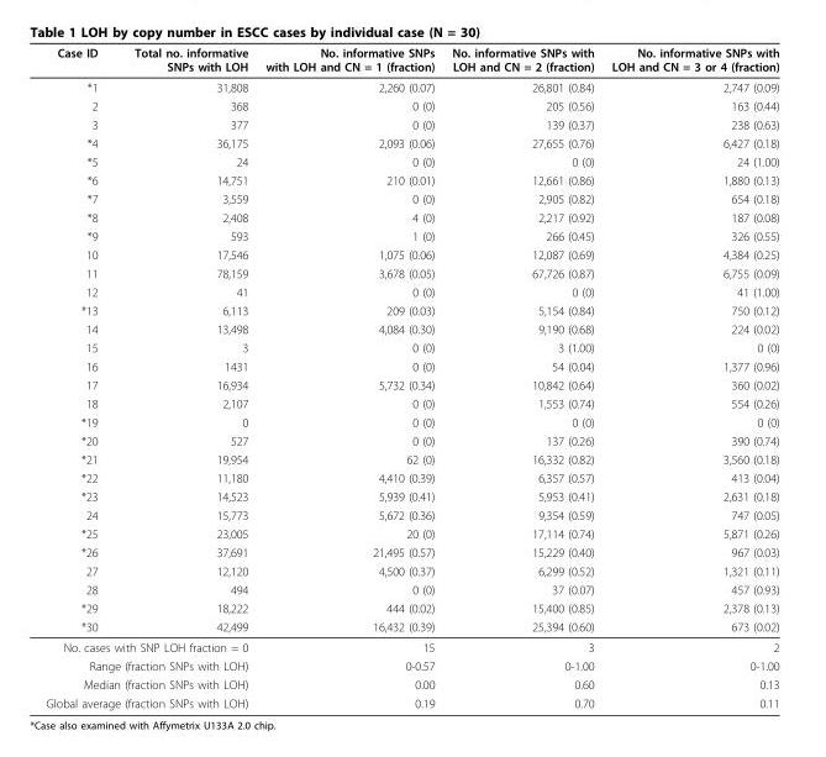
<table><thead><tr><td>Case ID</td><td>Total no. informative SNPs with LOH</td><td>No. informative SNPs with LOH and CN = 1 (fraction)</td><td>No. informative SNPs with LOH and CN = 2 (fraction)</td><td>No. informative SNPs with LOH and CN = 3 or 4 (fraction)</td></tr></thead><tbody><tr><td>*1</td><td>31,808</td><td>2,260 (0.07)</td><td>26,801 (0.84)</td><td>2,747 (0.09)</td></tr><tr><td>2</td><td>368</td><td>0 (0)</td><td>205 (0.56)</td><td>163 (0.44)</td></tr><tr><td>3</td><td>377</td><td>0 (0)</td><td>139 (0.37)</td><td>238 (0.63)</td></tr><tr><td>*4</td><td>36,175</td><td>2,093 (0.06)</td><td>27,655 (0.76)</td><td>6,427 (0.18)</td></tr><tr><td>*5</td><td>24</td><td>0 (0)</td><td>0 (0)</td><td>24 (1.00)</td></tr><tr><td>*6</td><td>14,751</td><td>210 (0.01)</td><td>12,661 (0.86)</td><td>1,880 (0.13)</td></tr><tr><td>*7</td><td>3,559</td><td>0 (0)</td><td>2,905 (0.82)</td><td>654 (0.18)</td></tr><tr><td>*8</td><td>2,408</td><td>4 (0)</td><td>2,217 (0.92)</td><td>187 (0.08)</td></tr><tr><td>*9</td><td>593</td><td>1 (0)</td><td>266 (0.45)</td><td>326 (0.55)</td></tr><tr><td>10</td><td>17,546</td><td>1,075 (0.06)</td><td>12,087 (0.69)</td><td>4,384 (0.25)</td></tr><tr><td>11</td><td>78,159</td><td>3,678 (0.05)</td><td>67,726 (0.87)</td><td>6,755 (0.09)</td></tr><tr><td>12</td><td>41</td><td>0 (0)</td><td>0 (0)</td><td>41 (1.00)</td></tr><tr><td>*13</td><td>6,113</td><td>209 (0.03)</td><td>5,154 (0.84)</td><td>750 (0.12)</td></tr><tr><td>14</td><td>13,498</td><td>4,084 (0.30)</td><td>9,190 (0.68)</td><td>224 (0.02)</td></tr><tr><td>15</td><td>3</td><td>0 (0)</td><td>3 (1.00)</td><td>0 (0)</td></tr><tr><td>16</td><td>1431</td><td>0 (0)</td><td>54 (0.04)</td><td>1,377 (0.96)</td></tr><tr><td>17</td><td>16,934</td><td>5,732 (0.34)</td><td>10,842 (0.64)</td><td>360 (0.02)</td></tr><tr><td>18</td><td>2,107</td><td>0 (0)</td><td>1,553 (0.74)</td><td>554 (0.26)</td></tr><tr><td>*19</td><td>0</td><td>0 (0)</td><td>0 (0)</td><td>0 (0)</td></tr><tr><td>*20</td><td>527</td><td>0 (0)</td><td>137 (0.26)</td><td>390 (0.74)</td></tr><tr><td>*21</td><td>19,954</td><td>62 (0)</td><td>16,332 (0.82)</td><td>3,560 (0.18)</td></tr><tr><td>*22</td><td>11,180</td><td>4,410 (0.39)</td><td>6,357 (0.57)</td><td>413 (0.04)</td></tr><tr><td>*23</td><td>14,523</td><td>5,939 (0.41)</td><td>5,953 (0.41)</td><td>2,631 (0.18)</td></tr><tr><td>24</td><td>15,773</td><td>5,672 (0.36)</td><td>9,354 (0.59)</td><td>747 (0.05)</td></tr><tr><td>*25</td><td>23,005</td><td>20 (0)</td><td>17,114 (0.74)</td><td>5,871 (0.26)</td></tr><tr><td>*26</td><td>37,691</td><td>21,495 (0.57)</td><td>15,229 (0.40)</td><td>967 (0.03)</td></tr><tr><td>27</td><td>12,120</td><td>4,500 (0.37)</td><td>6,299 (0.52)</td><td>1,321 (0.11)</td></tr><tr><td>28</td><td>494</td><td>0 (0)</td><td>37 (0.07)</td><td>457 (0.93)</td></tr><tr><td>*29</td><td>18,222</td><td>444 (0.02)</td><td>15,400 (0.85)</td><td>2,378 (0.13)</td></tr><tr><td>*30</td><td>42,499</td><td>16,432 (0.39)</td><td>25,394 (0.60)</td><td>673 (0.02)</td></tr><tr><td colspan="2">No. cases with SNP LOH fraction = 0</td><td>15</td><td>3</td><td>2</td></tr><tr><td colspan="2">Range (fraction SNPs with LOH)</td><td>0-0.57</td><td>0-1.00</td><td>0-1.00</td></tr><tr><td colspan="2">Median (fraction SNPs with LOH)</td><td>0.00</td><td>0.60</td><td>0.13</td></tr><tr><td colspan="2">Global average (fraction SNPs with LOH)</td><td>0.19</td><td>0.70</td><td>0.11</td></tr></tbody></table>